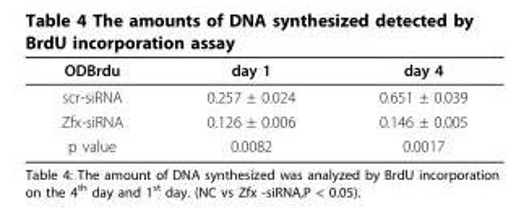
<table><thead><tr><td>ODBrdu</td><td>day 1</td><td>day 4</td></tr></thead><tbody><tr><td>scr-siRNA</td><td>0.257 ± 0.024</td><td>0.651 ± 0.039</td></tr><tr><td>Zfx-siRNA</td><td>0.126 ± 0.006</td><td>0.146 ± 0.005</td></tr><tr><td>p value</td><td>0.0082</td><td>0.0017</td></tr></tbody></table>